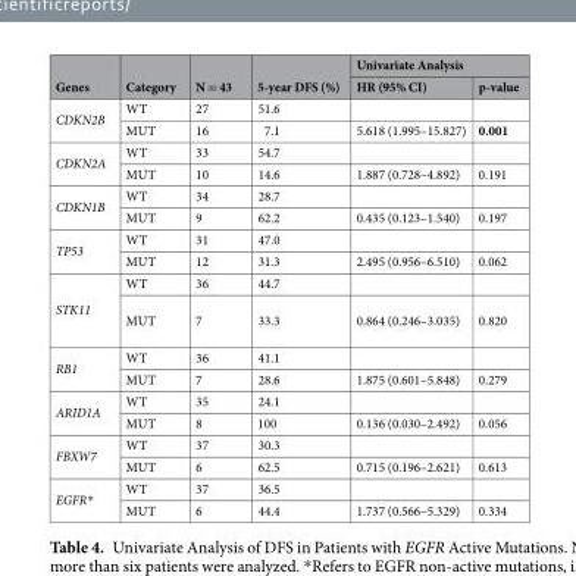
<table><thead><tr><td rowspan="2">Genes</td><td rowspan="2">Category</td><td rowspan="2">N = 43</td><td rowspan="2">5-year DFS (%)</td><td colspan="2">Univariate Analysis</td></tr><tr><td>HR (95% CI)</td><td>p-value</td></tr></thead><tbody><tr><td rowspan="2">CDKN2B</td><td>WT</td><td>27</td><td>51.6</td><td></td><td></td></tr><tr><td>MUT</td><td>16</td><td>7.1</td><td>5.618 (1.995–15.827)</td><td>0.001</td></tr><tr><td rowspan="2">CDKN2A</td><td>WT</td><td>33</td><td>54.7</td><td></td><td></td></tr><tr><td>MUT</td><td>10</td><td>14.6</td><td>1.887 (0.728–4.892)</td><td>0.191</td></tr><tr><td rowspan="2">CDKN1B</td><td>WT</td><td>34</td><td>28.7</td><td></td><td></td></tr><tr><td>MUT</td><td>9</td><td>62.2</td><td>0.435 (0.123–1.540)</td><td>0.197</td></tr><tr><td rowspan="2">TP53</td><td>WT</td><td>31</td><td>47.0</td><td></td><td></td></tr><tr><td>MUT</td><td>12</td><td>31.3</td><td>2.495 (0.956–6.510)</td><td>0.062</td></tr><tr><td rowspan="2">STK11</td><td>WT</td><td>36</td><td>44.7</td><td></td><td></td></tr><tr><td>MUT</td><td>7</td><td>33.3</td><td>0.864 (0.246–3.035)</td><td>0.820</td></tr><tr><td rowspan="2">RB1</td><td>WT</td><td>36</td><td>41.1</td><td></td><td></td></tr><tr><td>MUT</td><td>7</td><td>28.6</td><td>1.875 (0.601–5.848)</td><td>0.279</td></tr><tr><td rowspan="2">ARID1A</td><td>WT</td><td>35</td><td>24.1</td><td></td><td></td></tr><tr><td>MUT</td><td>8</td><td>100</td><td>0.136 (0.030–2.492)</td><td>0.056</td></tr><tr><td rowspan="2">FBXW7</td><td>WT</td><td>37</td><td>30.3</td><td></td><td></td></tr><tr><td>MUT</td><td>6</td><td>62.5</td><td>0.715 (0.196–2.621)</td><td>0.613</td></tr><tr><td rowspan="2">EGFR*</td><td>WT</td><td>37</td><td>36.5</td><td></td><td></td></tr><tr><td>MUT</td><td>6</td><td>44.4</td><td>1.737 (0.566–5.329)</td><td>0.334</td></tr></tbody></table>